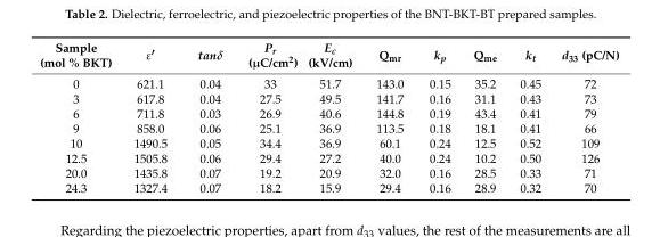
<table><thead><tr><td>Sample (mol % BKT)</td><td>ε′</td><td>tanδ</td><td>P<sub>r</sub> (µC/cm<sup>2</sup>)</td><td>E<sub>c</sub> (kV/cm)</td><td>Q<sub>mr</sub></td><td>k<sub>p</sub></td><td>Q<sub>me</sub></td><td>k<sub>t</sub></td><td>d<sub>33</sub> (pC/N)</td></tr></thead><tbody><tr><td>0</td><td>621.1</td><td>0.04</td><td>33</td><td>51.7</td><td>143.0</td><td>0.15</td><td>35.2</td><td>0.45</td><td>72</td></tr><tr><td>3</td><td>617.8</td><td>0.04</td><td>27.5</td><td>49.5</td><td>141.7</td><td>0.16</td><td>31.1</td><td>0.43</td><td>73</td></tr><tr><td>6</td><td>711.8</td><td>0.03</td><td>26.9</td><td>40.6</td><td>144.8</td><td>0.19</td><td>43.4</td><td>0.41</td><td>79</td></tr><tr><td>9</td><td>858.0</td><td>0.06</td><td>25.1</td><td>36.9</td><td>113.5</td><td>0.18</td><td>18.1</td><td>0.41</td><td>66</td></tr><tr><td>10</td><td>1490.5</td><td>0.05</td><td>34.4</td><td>36.9</td><td>60.1</td><td>0.24</td><td>12.5</td><td>0.52</td><td>109</td></tr><tr><td>12.5</td><td>1505.8</td><td>0.06</td><td>29.4</td><td>27.2</td><td>40.0</td><td>0.24</td><td>10.2</td><td>0.50</td><td>126</td></tr><tr><td>20.0</td><td>1435.8</td><td>0.07</td><td>19.2</td><td>20.9</td><td>32.0</td><td>0.16</td><td>28.5</td><td>0.33</td><td>71</td></tr><tr><td>24.3</td><td>1327.4</td><td>0.07</td><td>18.2</td><td>15.9</td><td>29.4</td><td>0.16</td><td>28.9</td><td>0.32</td><td>70</td></tr></tbody></table>